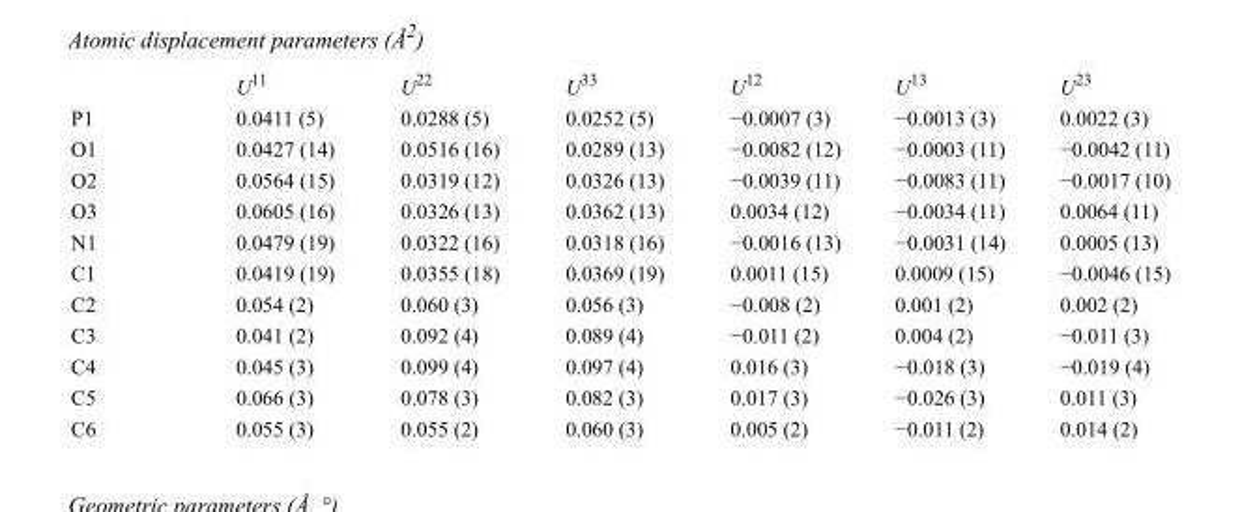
<table><thead><tr><td></td><td>U<sup>11</sup></td><td>U<sup>22</sup></td><td>U<sup>33</sup></td><td>U<sup>12</sup></td><td>U<sup>13</sup></td><td>U<sup>23</sup></td></tr></thead><tbody><tr><td>P1</td><td>0.0411 (5)</td><td>0.0288 (5)</td><td>0.0252 (5)</td><td>−0.0007 (3)</td><td>−0.0013 (3)</td><td>0.0022 (3)</td></tr><tr><td>O1</td><td>0.0427 (14)</td><td>0.0516 (16)</td><td>0.0289 (13)</td><td>−0.0082 (12)</td><td>−0.0003 (11)</td><td>−0.0042 (11)</td></tr><tr><td>O2</td><td>0.0564 (15)</td><td>0.0319 (12)</td><td>0.0326 (13)</td><td>−0.0039 (11)</td><td>−0.0083 (11)</td><td>−0.0017 (10)</td></tr><tr><td>O3</td><td>0.0605 (16)</td><td>0.0326 (13)</td><td>0.0362 (13)</td><td>0.0034 (12)</td><td>−0.0034 (11)</td><td>0.0064 (11)</td></tr><tr><td>N1</td><td>0.0479 (19)</td><td>0.0322 (16)</td><td>0.0318 (16)</td><td>−0.0016 (13)</td><td>−0.0031 (14)</td><td>0.0005 (13)</td></tr><tr><td>C1</td><td>0.0419 (19)</td><td>0.0355 (18)</td><td>0.0369 (19)</td><td>0.0011 (15)</td><td>0.0009 (15)</td><td>−0.0046 (15)</td></tr><tr><td>C2</td><td>0.054 (2)</td><td>0.060 (3)</td><td>0.056 (3)</td><td>−0.008 (2)</td><td>0.001 (2)</td><td>0.002 (2)</td></tr><tr><td>C3</td><td>0.041 (2)</td><td>0.092 (4)</td><td>0.089 (4)</td><td>−0.011 (2)</td><td>0.004 (2)</td><td>−0.011 (3)</td></tr><tr><td>C4</td><td>0.045 (3)</td><td>0.099 (4)</td><td>0.097 (4)</td><td>0.016 (3)</td><td>−0.018 (3)</td><td>−0.019 (4)</td></tr><tr><td>C5</td><td>0.066 (3)</td><td>0.078 (3)</td><td>0.082 (3)</td><td>0.017 (3)</td><td>−0.026 (3)</td><td>0.011 (3)</td></tr><tr><td>C6</td><td>0.055 (3)</td><td>0.055 (2)</td><td>0.060 (3)</td><td>0.005 (2)</td><td>−0.011 (2)</td><td>0.014 (2)</td></tr></tbody></table>